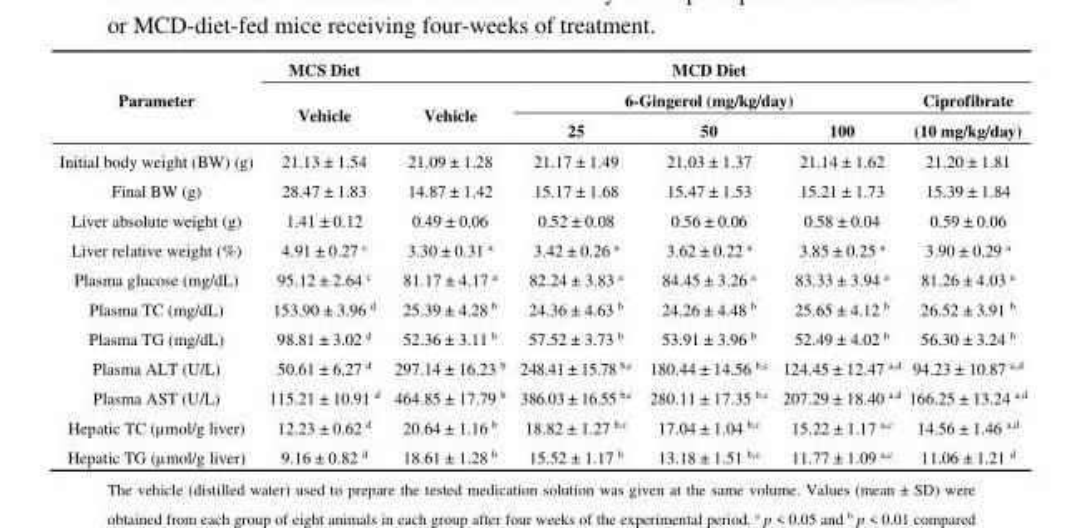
<table><thead><tr><td rowspan="3">Parameter</td><td rowspan="3">MCS Diet Vehicle</td><td colspan="5">MCD Diet</td></tr><tr><td rowspan="2">Vehicle</td><td colspan="3">6-Gingerol (mg/kg/day)</td><td rowspan="2">Ciprofibrate (10 mg/kg/day)</td></tr><tr><td>25</td><td>50</td><td>100</td></tr></thead><tbody><tr><td>Initial body weight (BW) (g)</td><td>21.13 ± 1.54</td><td>21.09 ± 1.28</td><td>21.17 ± 1.49</td><td>21.03 ± 1.37</td><td>21.14 ± 1.62</td><td>21.20 ± 1.81</td></tr><tr><td>Final BW (g)</td><td>28.47 ± 1.83</td><td>14.87 ± 1.42</td><td>15.17 ± 1.68</td><td>15.47 ± 1.53</td><td>15.21 ± 1.73</td><td>15.39 ± 1.84</td></tr><tr><td>Liver absolute weight (g)</td><td>1.41 ± 0.12</td><td>0.49 ± 0.06</td><td>0.52 ± 0.08</td><td>0.56 ± 0.06</td><td>0.58 ± 0.04</td><td>0.59 ± 0.06</td></tr><tr><td>Liver relative weight (%)</td><td>4.91 ± 0.27 <sup>c</sup></td><td>3.30 ± 0.31 <sup>a</sup></td><td>3.42 ± 0.26 <sup>a</sup></td><td>3.62 ± 0.22 <sup>a</sup></td><td>3.85 ± 0.25 <sup>a</sup></td><td>3.90 ± 0.29 <sup>a</sup></td></tr><tr><td>Plasma glucose (mg/dL)</td><td>95.12 ± 2.64 <sup>c</sup></td><td>81.17 ± 4.17 <sup>a</sup></td><td>82.24 ± 3.83 <sup>a</sup></td><td>84.45 ± 3.26 <sup>a</sup></td><td>83.33 ± 3.94 <sup>a</sup></td><td>81.26 ± 4.03 <sup>a</sup></td></tr><tr><td>Plasma TC (mg/dL)</td><td>153.90 ± 3.96 <sup>d</sup></td><td>25.39 ± 4.28 <sup>b</sup></td><td>24.36 ± 4.63 <sup>b</sup></td><td>24.26 ± 4.48 <sup>b</sup></td><td>25.65 ± 4.12 <sup>b</sup></td><td>26.52 ± 3.91 <sup>b</sup></td></tr><tr><td>Plasma TG (mg/dL)</td><td>98.81 ± 3.02 <sup>d</sup></td><td>52.36 ± 3.11 <sup>b</sup></td><td>57.52 ± 3.73 <sup>b</sup></td><td>53.91 ± 3.96 <sup>b</sup></td><td>52.49 ± 4.02 <sup>b</sup></td><td>56.30 ± 3.24 <sup>b</sup></td></tr><tr><td>Plasma ALT (U/L)</td><td>50.61 ± 6.27 <sup>d</sup></td><td>297.14 ± 16.23 <sup>b</sup></td><td>248.41 ± 15.78 <sup>b,c</sup></td><td>180.44 ± 14.56 <sup>b,c</sup></td><td>124.45 ± 12.47 <sup>a,d</sup></td><td>94.23 ± 10.87 <sup>a,d</sup></td></tr><tr><td>Plasma AST (U/L)</td><td>115.21 ± 10.91 <sup>d</sup></td><td>464.85 ± 17.79 <sup>b</sup></td><td>386.03 ± 16.55 <sup>b,c</sup></td><td>280.11 ± 17.35 <sup>b,c</sup></td><td>207.29 ± 18.40 <sup>a,d</sup></td><td>166.25 ± 13.24 <sup>a,d</sup></td></tr><tr><td>Hepatic TC (µmol/g liver)</td><td>12.23 ± 0.62 <sup>d</sup></td><td>20.64 ± 1.16 <sup>b</sup></td><td>18.82 ± 1.27 <sup>b,c</sup></td><td>17.04 ± 1.04 <sup>b,c</sup></td><td>15.22 ± 1.17 <sup>a,c</sup></td><td>14.56 ± 1.46 <sup>a,d</sup></td></tr><tr><td>Hepatic TG (µmol/g liver)</td><td>9.16 ± 0.82 <sup>d</sup></td><td>18.61 ± 1.28 <sup>b</sup></td><td>15.52 ± 1.17 <sup>b</sup></td><td>13.18 ± 1.51 <sup>b,c</sup></td><td>11.77 ± 1.09 <sup>a,c</sup></td><td>11.06 ± 1.21 <sup>d</sup></td></tr></tbody></table>